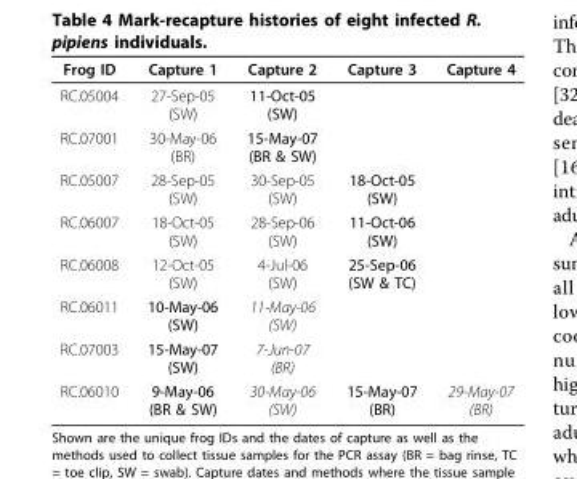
<table><thead><tr><td>Frog ID</td><td>Capture 1</td><td>Capture 2</td><td>Capture 3</td><td>Capture 4</td></tr></thead><tbody><tr><td>RC.05004</td><td>27-Sep-05 (SW)</td><td>11-Oct-05 (SW)</td><td></td><td></td></tr><tr><td>RC.07001</td><td>30-May-06 (BR)</td><td>15-May-07 (BR &amp; SW)</td><td></td><td></td></tr><tr><td>RC.05007</td><td>28-Sep-05 (SW)</td><td>30-Sep-05 (SW)</td><td>18-Oct-05 (SW)</td><td></td></tr><tr><td>RC.06007</td><td>18-Oct-05 (SW)</td><td>28-Sep-06 (SW)</td><td>11-Oct-06 (SW)</td><td></td></tr><tr><td>RC.06008</td><td>12-Oct-05 (SW)</td><td>4-Jul-06 (SW)</td><td>25-Sep-06 (SW &amp; TC)</td><td></td></tr><tr><td>RC.06011</td><td>10-May-06 (SW)</td><td>11-May-06 (SW)</td><td></td><td></td></tr><tr><td>RC.07003</td><td>15-May-07 (SW)</td><td>7-Jun-07 (BR)</td><td></td><td></td></tr><tr><td>RC.06010</td><td>9-May-06 (BR &amp; SW)</td><td>30-May-06 (SW)</td><td>15-May-07 (BR)</td><td>29-May-07 (BR)</td></tr></tbody></table>